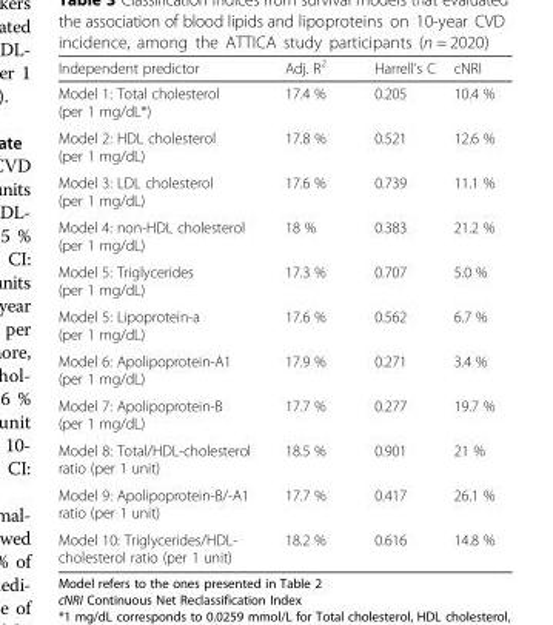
<table><thead><tr><td>Independent predictor</td><td>Adj. R<sup>2</sup></td><td>Harrell’s C</td><td>cNRI</td></tr></thead><tbody><tr><td>Model 1: Total cholesterol (per 1 mg/dL*)</td><td>17.4 %</td><td>0.205</td><td>10.4 %</td></tr><tr><td>Model 2: HDL cholesterol (per 1 mg/dL)</td><td>17.8 %</td><td>0.521</td><td>12.6 %</td></tr><tr><td>Model 3: LDL cholesterol (per 1 mg/dL)</td><td>17.6 %</td><td>0.739</td><td>11.1 %</td></tr><tr><td>Model 4: non-HDL cholesterol (per 1 mg/dL)</td><td>18 %</td><td>0.383</td><td>21.2 %</td></tr><tr><td>Model 5: Triglycerides (per 1 mg/dL)</td><td>17.3 %</td><td>0.707</td><td>5.0 %</td></tr><tr><td>Model 5: Lipoprotein-a (per 1 mg/dL)</td><td>17.6 %</td><td>0.562</td><td>6.7 %</td></tr><tr><td>Model 6: Apolipoprotein-A1 (per 1 mg/dL)</td><td>17.9 %</td><td>0.271</td><td>3.4 %</td></tr><tr><td>Model 7: Apolipoprotein-B (per 1 mg/dL)</td><td>17.7 %</td><td>0.277</td><td>19.7 %</td></tr><tr><td>Model 8: Total/HDL-cholesterol ratio (per 1 unit)</td><td>18.5 %</td><td>0.901</td><td>21 %</td></tr><tr><td>Model 9: Apolipoprotein-B/-A1 ratio (per 1 unit)</td><td>17.7 %</td><td>0.417</td><td>26.1 %</td></tr><tr><td>Model 10: Triglycerides/HDL- cholesterol ratio (per 1 unit)</td><td>18.2 %</td><td>0.616</td><td>14.8 %</td></tr></tbody></table>